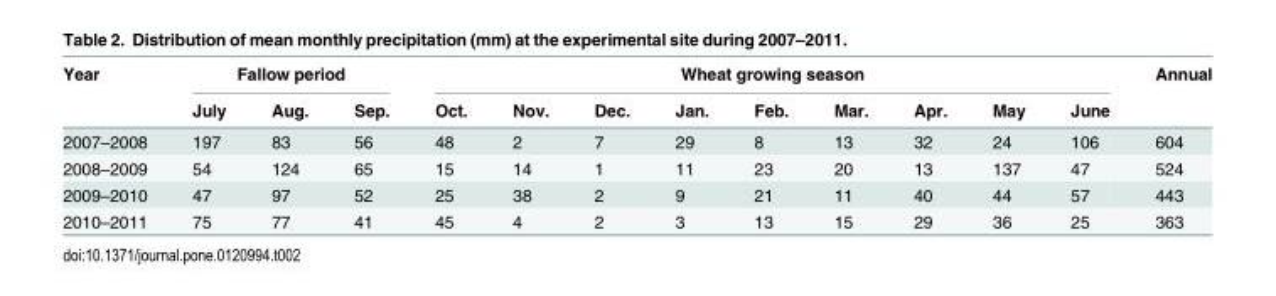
<table><thead><tr><td rowspan="2">Year</td><td colspan="3">Fallow period</td><td colspan="9">Wheat growing season</td><td rowspan="2">Annual</td></tr><tr><td>July</td><td>Aug.</td><td>Sep.</td><td>Oct.</td><td>Nov.</td><td>Dec.</td><td>Jan.</td><td>Feb.</td><td>Mar.</td><td>Apr.</td><td>May</td><td>June</td></tr></thead><tbody><tr><td>2007–2008</td><td>197</td><td>83</td><td>56</td><td>48</td><td>2</td><td>7</td><td>29</td><td>8</td><td>13</td><td>32</td><td>24</td><td>106</td><td>604</td></tr><tr><td>2008–2009</td><td>54</td><td>124</td><td>65</td><td>15</td><td>14</td><td>1</td><td>11</td><td>23</td><td>20</td><td>13</td><td>137</td><td>47</td><td>524</td></tr><tr><td>2009–2010</td><td>47</td><td>97</td><td>52</td><td>25</td><td>38</td><td>2</td><td>9</td><td>21</td><td>11</td><td>40</td><td>44</td><td>57</td><td>443</td></tr><tr><td>2010–2011</td><td>75</td><td>77</td><td>41</td><td>45</td><td>4</td><td>2</td><td>3</td><td>13</td><td>15</td><td>29</td><td>36</td><td>25</td><td>363</td></tr></tbody></table>